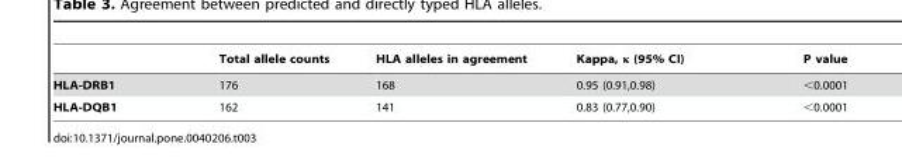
<table><thead><tr><td></td><td>Total allele counts</td><td>HLA alleles in agreement</td><td>Kappa, κ (95% CI)</td><td>P value</td></tr></thead><tbody><tr><td>HLA-DRB1</td><td>176</td><td>168</td><td>0.95 (0.91,0.98)</td><td>&lt;0.0001</td></tr><tr><td>HLA-DQB1</td><td>162</td><td>141</td><td>0.83 (0.77,0.90)</td><td>&lt;0.0001</td></tr></tbody></table>